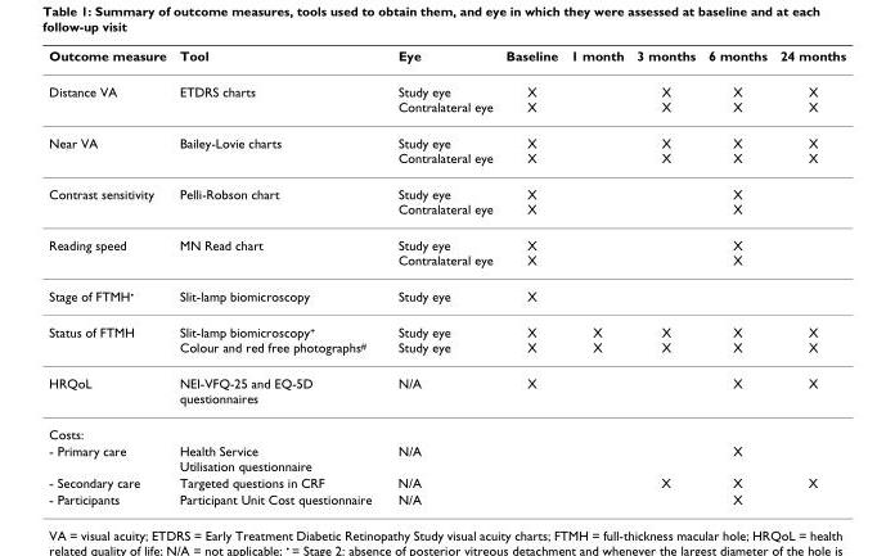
<table><thead><tr><td>Outcome measure</td><td>Tool</td><td>Eye</td><td>Baseline</td><td>1 month</td><td>3 months</td><td>6 months</td><td>24 months</td></tr></thead><tbody><tr><td>Distance VA</td><td>ETDRS charts</td><td>Study eye Contralateral eye</td><td>X X</td><td></td><td>X X</td><td>X X</td><td>X X</td></tr><tr><td>Near VA</td><td>Bailey-Lovie charts</td><td>Study eye Contralateral eye</td><td>X X</td><td></td><td>X X</td><td>X X</td><td>X X</td></tr><tr><td>Contrast sensitivity</td><td>Pelli-Robson chart</td><td>Study eye Contralateral eye</td><td>X X</td><td></td><td></td><td>X X</td><td></td></tr><tr><td>Reading speed</td><td>MN Read chart</td><td>Study eye Contralateral eye</td><td>X X</td><td></td><td></td><td>X X</td><td></td></tr><tr><td>Stage of FTMH<sup>•</sup></td><td>Slit-lamp biomicroscopy</td><td>Study eye</td><td>X</td><td></td><td></td><td></td><td></td></tr><tr><td>Status of FTMH</td><td>Slit-lamp biomicroscopy<sup>+</sup> Colour and red free photographs<sup>#</sup></td><td>Study eye Study eye</td><td>X X</td><td>X X</td><td>X X</td><td>X X</td><td>X X</td></tr><tr><td>HRQoL</td><td>NEI-VFQ-25 and EQ-5D questionnaires</td><td>N/A</td><td>X</td><td></td><td></td><td>X</td><td>X</td></tr><tr><td colspan="8">Costs:</td></tr><tr><td>- Primary care</td><td>Health Service Utilisation questionnaire</td><td>N/A</td><td></td><td></td><td></td><td>X</td><td></td></tr><tr><td>- Secondary care</td><td>Targeted questions in CRF</td><td>N/A</td><td></td><td></td><td>X</td><td>X</td><td>X</td></tr><tr><td>- Participants</td><td>Participant Unit Cost questionnaire</td><td>N/A</td><td></td><td></td><td></td><td>X</td><td></td></tr></tbody></table>